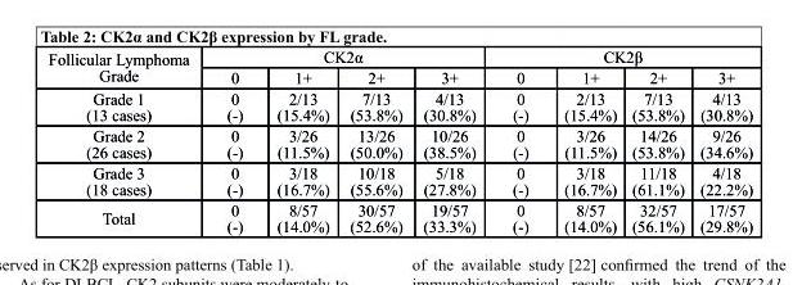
<table><thead><tr><td rowspan="2">Follicular Lymphoma Grade</td><td colspan="4">CK2α</td><td colspan="4">CK2β</td></tr><tr><td>0</td><td>1+</td><td>2+</td><td>3+</td><td>0</td><td>1+</td><td>2+</td><td>3+</td></tr></thead><tbody><tr><td>Grade 1 (13 cases)</td><td>0 (-)</td><td>2/13 (15.4%)</td><td>7/13 (53.8%)</td><td>4/13 (30.8%)</td><td>0 (-)</td><td>2/13 (15.4%)</td><td>7/13 (53.8%)</td><td>4/13 (30.8%)</td></tr><tr><td>Grade 2 (26 cases)</td><td>0 (-)</td><td>3/26 (11.5%)</td><td>13/26 (50.0%)</td><td>10/26 (38.5%)</td><td>0 (-)</td><td>3/26 (11.5%)</td><td>14/26 (53.8%)</td><td>9/26 (34.6%)</td></tr><tr><td>Grade 3 (18 cases)</td><td>0 (-)</td><td>3/18 (16.7%)</td><td>10/18 (55.6%)</td><td>5/18 (27.8%)</td><td>0 (-)</td><td>3/18 (16.7%)</td><td>11/18 (61.1%)</td><td>4/18 (22.2%)</td></tr><tr><td>Total</td><td>0 (-)</td><td>8/57 (14.0%)</td><td>30/57 (52.6%)</td><td>19/57 (33.3%)</td><td>0 (-)</td><td>8/57 (14.0%)</td><td>32/57 (56.1%)</td><td>17/57 (29.8%)</td></tr></tbody></table>